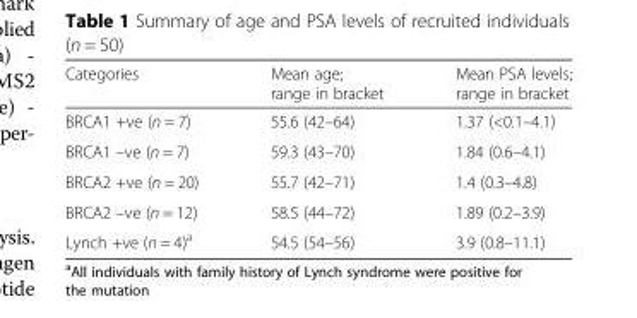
<table><thead><tr><td>Categories</td><td>Mean age; range in bracket</td><td>Mean PSA levels; range in bracket</td></tr></thead><tbody><tr><td>BRCA1 +ve (n = 7)</td><td>55.6 (42–64)</td><td>1.37 (&lt;0.1–4.1)</td></tr><tr><td>BRCA1 –ve (n = 7)</td><td>59.3 (43–70)</td><td>1.84 (0.6–4.1)</td></tr><tr><td>BRCA2 +ve (n = 20)</td><td>55.7 (42–71)</td><td>1.4 (0.3–4.8)</td></tr><tr><td>BRCA2 –ve (n = 12)</td><td>58.5 (44–72)</td><td>1.89 (0.2–3.9)</td></tr><tr><td>Lynch +ve (n = 4)<sup>a</sup></td><td>54.5 (54–56)</td><td>3.9 (0.8–11.1)</td></tr></tbody></table>